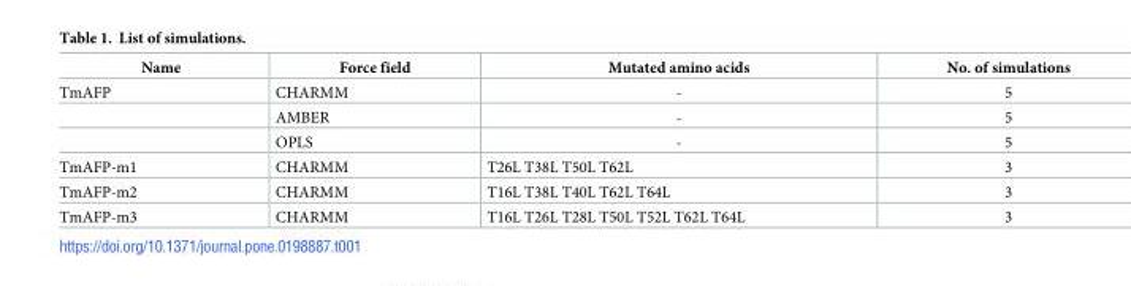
<table><thead><tr><td>Name</td><td>Force field</td><td>Mutated amino acids</td><td>No. of simulations</td></tr></thead><tbody><tr><td rowspan="3">TmAFP</td><td>CHARMM</td><td>-</td><td>5</td></tr><tr><td>AMBER</td><td>-</td><td>5</td></tr><tr><td>OPLS</td><td>-</td><td>5</td></tr><tr><td>TmAFP-m1</td><td>CHARMM</td><td>T26L T38L T50L T62L</td><td>3</td></tr><tr><td>TmAFP-m2</td><td>CHARMM</td><td>T16L T38L T40L T62L T64L</td><td>3</td></tr><tr><td>TmAFP-m3</td><td>CHARMM</td><td>T16L T26L T28L T50L T52L T62L T64L</td><td>3</td></tr></tbody></table>